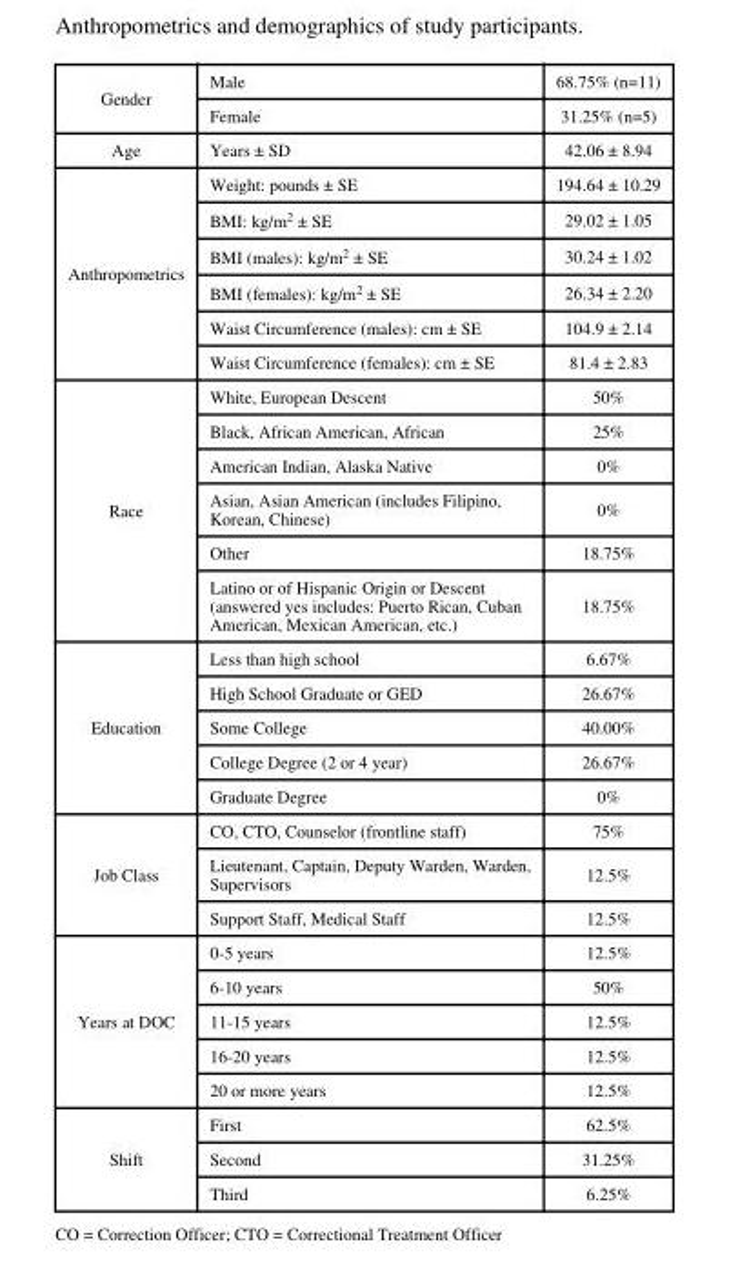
<table><tbody><tr><td rowspan="2">Gender</td><td>Male</td><td>68.75% (n=11)</td></tr><tr><td>Female</td><td>31.25% (n=5)</td></tr><tr><td>Age</td><td>Years ± SD</td><td>42.06 ± 8.94</td></tr><tr><td rowspan="6">Anthropometrics</td><td>Weight: pounds ± SE</td><td>194.64 ± 10.29</td></tr><tr><td>BMI: kg/m<sup>2</sup> ± SE</td><td>29.02 ± 1.05</td></tr><tr><td>BMI (males): kg/m<sup>2</sup> ± SE</td><td>30.24 ± 1.02</td></tr><tr><td>BMI (females): kg/m<sup>2</sup> ± SE</td><td>26.34 ± 2.20</td></tr><tr><td>Waist Circumference (males): cm ± SE</td><td>104.9 ± 2.14</td></tr><tr><td>Waist Circumference (females): cm ± SE</td><td>81.4 ± 2.83</td></tr><tr><td rowspan="6">Race</td><td>White, European Descent</td><td>50%</td></tr><tr><td>Black, African American, African</td><td>25%</td></tr><tr><td>American Indian, Alaska Native</td><td>0%</td></tr><tr><td>Asian, Asian American (includes Filipino, Korean, Chinese)</td><td>0%</td></tr><tr><td>Other</td><td>18.75%</td></tr><tr><td>Latino or of Hispanic Origin or Descent (answered yes includes: Puerto Rican, Cuban American, Mexican American, etc.)</td><td>18.75%</td></tr><tr><td rowspan="5">Education</td><td>Less than high school</td><td>6.67%</td></tr><tr><td>High School Graduate or GED</td><td>26.67%</td></tr><tr><td>Some College</td><td>40.00%</td></tr><tr><td>College Degree (2 or 4 year)</td><td>26.67%</td></tr><tr><td>Graduate Degree</td><td>0%</td></tr><tr><td rowspan="3">Job Class</td><td>CO, CTO, Counselor (frontline staff)</td><td>75%</td></tr><tr><td>Lieutenant, Captain, Deputy Warden, Warden, Supervisors</td><td>12.5%</td></tr><tr><td>Support Staff, Medical Staff</td><td>12.5%</td></tr><tr><td rowspan="5">Years at DOC</td><td>0-5 years</td><td>12.5%</td></tr><tr><td>6-10 years</td><td>50%</td></tr><tr><td>11-15 years</td><td>12.5%</td></tr><tr><td>16-20 years</td><td>12.5%</td></tr><tr><td>20 or more years</td><td>12.5%</td></tr><tr><td rowspan="3">Shift</td><td>First</td><td>62.5%</td></tr><tr><td>Second</td><td>31.25%</td></tr><tr><td>Third</td><td>6.25%</td></tr></tbody></table>